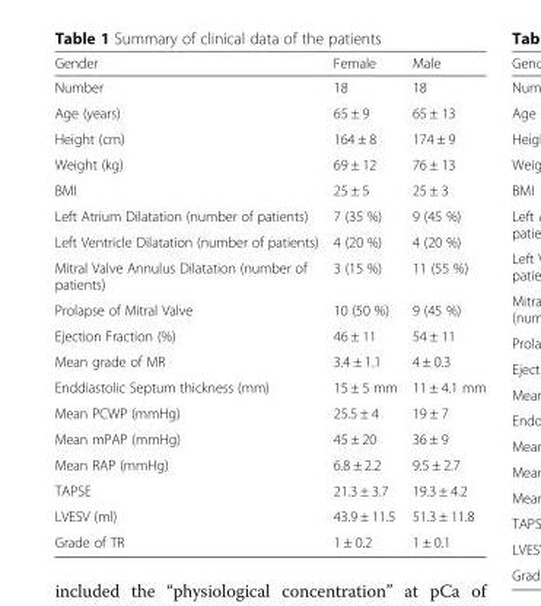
<table><thead><tr><td>Gender</td><td>Female</td><td>Male</td></tr></thead><tbody><tr><td>Number</td><td>18</td><td>18</td></tr><tr><td>Age (years)</td><td>65 ± 9</td><td>65 ± 13</td></tr><tr><td>Height (cm)</td><td>164 ± 8</td><td>174 ± 9</td></tr><tr><td>Weight (kg)</td><td>69 ± 12</td><td>76 ± 13</td></tr><tr><td>BMI</td><td>25 ± 5</td><td>25 ± 3</td></tr><tr><td>Left Atrium Dilatation (number of patients)</td><td>7 (35 %)</td><td>9 (45 %)</td></tr><tr><td>Left Ventricle Dilatation (number of patients)</td><td>4 (20 %)</td><td>4 (20 %)</td></tr><tr><td>Mitral Valve Annulus Dilatation (number of patients)</td><td>3 (15 %)</td><td>11 (55 %)</td></tr><tr><td>Prolapse of Mitral Valve</td><td>10 (50 %)</td><td>9 (45 %)</td></tr><tr><td>Ejection Fraction (%)</td><td>46 ± 11</td><td>54 ± 11</td></tr><tr><td>Mean grade of MR</td><td>3.4 ± 1.1</td><td>4 ± 0.3</td></tr><tr><td>Enddiastolic Septum thickness (mm)</td><td>15 ± 5 mm</td><td>11 ± 4.1 mm</td></tr><tr><td>Mean PCWP (mmHg)</td><td>25.5 ± 4</td><td>19 ± 7</td></tr><tr><td>Mean mPAP (mmHg)</td><td>45 ± 20</td><td>36 ± 9</td></tr><tr><td>Mean RAP (mmHg)</td><td>6.8 ± 2.2</td><td>9.5 ± 2.7</td></tr><tr><td>TAPSE</td><td>21.3 ± 3.7</td><td>19.3 ± 4.2</td></tr><tr><td>LVESV (ml)</td><td>43.9 ± 11.5</td><td>51.3 ± 11.8</td></tr><tr><td>Grade of TR</td><td>1 ± 0.2</td><td>1 ± 0.1</td></tr></tbody></table>